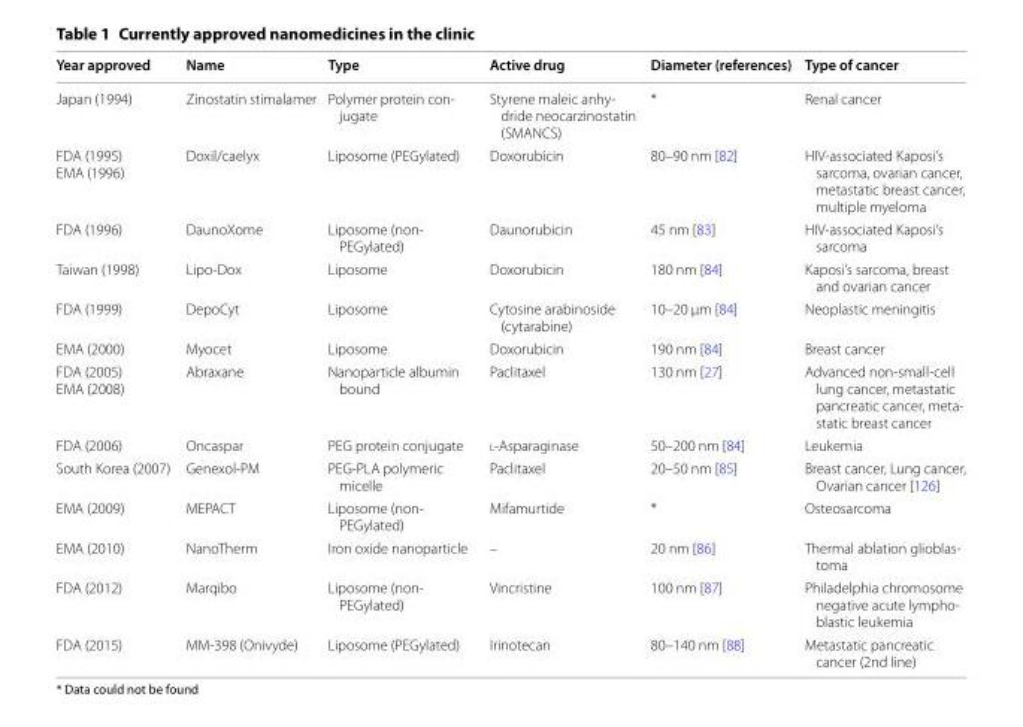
<table><thead><tr><td>Year approved</td><td>Name</td><td>Type</td><td>Active drug</td><td>Diameter (references)</td><td>Type of cancer</td></tr></thead><tbody><tr><td>Japan (1994)</td><td>Zinostatin stimalamer</td><td>Polymer protein con‑ jugate</td><td>Styrene maleic anhy‑ dride neocarzinostatin (SMANCS)</td><td>*</td><td>Renal cancer</td></tr><tr><td>FDA (1995) EMA (1996)</td><td>Doxil/caelyx</td><td>Liposome (PEGylated)</td><td>Doxorubicin</td><td>80–90 nm [82]</td><td>HIV‑associated Kaposi’s sarcoma, ovarian cancer, metastatic breast cancer, multiple myeloma</td></tr><tr><td>FDA (1996)</td><td>DaunoXome</td><td>Liposome (non‑ PEGylated)</td><td>Daunorubicin</td><td>45 nm [83]</td><td>HIV‑associated Kaposi’s sarcoma</td></tr><tr><td>Taiwan (1998)</td><td>Lipo‑Dox</td><td>Liposome</td><td>Doxorubicin</td><td>180 nm [84]</td><td>Kaposi’s sarcoma, breast and ovarian cancer</td></tr><tr><td>FDA (1999)</td><td>DepoCyt</td><td>Liposome</td><td>Cytosine arabinoside (cytarabine)</td><td>10–20 µm [84]</td><td>Neoplastic meningitis</td></tr><tr><td>EMA (2000)</td><td>Myocet</td><td>Liposome</td><td>Doxorubicin</td><td>190 nm [84]</td><td>Breast cancer</td></tr><tr><td>FDA (2005) EMA (2008)</td><td>Abraxane</td><td>Nanoparticle albumin bound</td><td>Paclitaxel</td><td>130 nm [27]</td><td>Advanced non‑small‑cell lung cancer, metastatic pancreatic cancer, meta‑ static breast cancer</td></tr><tr><td>FDA (2006)</td><td>Oncaspar</td><td>PEG protein conjugate</td><td>l‑Asparaginase</td><td>50–200 nm [84]</td><td>Leukemia</td></tr><tr><td>South Korea (2007)</td><td>Genexol‑PM</td><td>PEG‑PLA polymeric micelle</td><td>Paclitaxel</td><td>20–50 nm [85]</td><td>Breast cancer, Lung cancer, Ovarian cancer [126]</td></tr><tr><td>EMA (2009)</td><td>MEPACT</td><td>Liposome (non‑ PEGylated)</td><td>Mifamurtide</td><td>*</td><td>Osteosarcoma</td></tr><tr><td>EMA (2010)</td><td>NanoTherm</td><td>Iron oxide nanoparticle</td><td>–</td><td>20 nm [86]</td><td>Thermal ablation glioblas‑ toma</td></tr><tr><td>FDA (2012)</td><td>Marqibo</td><td>Liposome (non‑ PEGylated)</td><td>Vincristine</td><td>100 nm [87]</td><td>Philadelphia chromosome negative acute lympho‑ blastic leukemia</td></tr><tr><td>FDA (2015)</td><td>MM‑398 (Onivyde)</td><td>Liposome (PEGylated)</td><td>Irinotecan</td><td>80–140 nm [88]</td><td>Metastatic pancreatic cancer (2nd line)</td></tr></tbody></table>